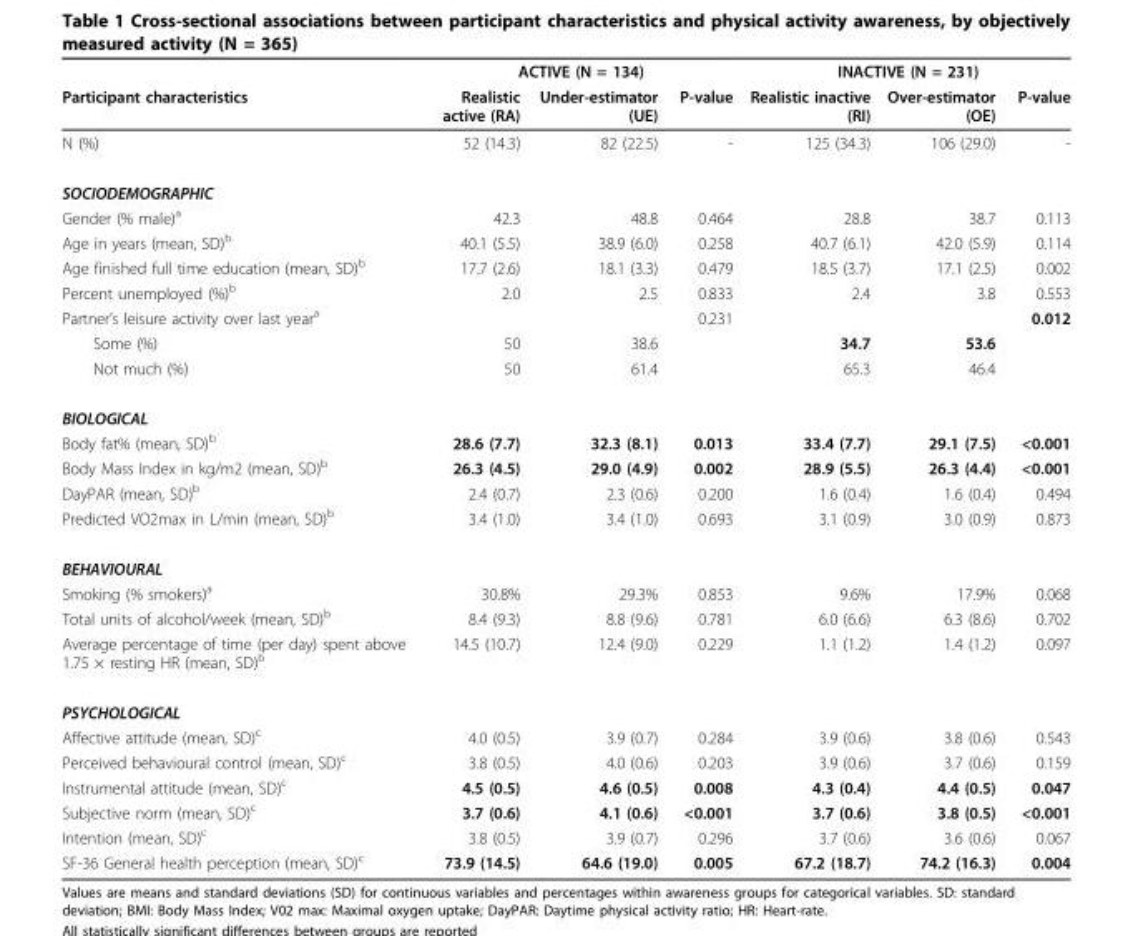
<table><thead><tr><td rowspan="2">Participant characteristics</td><td colspan="3">ACTIVE (N = 134)</td><td colspan="3">INACTIVE (N = 231)</td></tr><tr><td>Realistic active (RA)</td><td>Under-estimator (UE)</td><td>P-value</td><td>Realistic inactive (RI)</td><td>Over-estimator (OE)</td><td>P-value</td></tr></thead><tbody><tr><td>N (%)</td><td>52 (14.3)</td><td>82 (22.5)</td><td>-</td><td>125 (34.3)</td><td>106 (29.0)</td><td>-</td></tr><tr><td colspan="7">SOCIODEMOGRAPHIC</td></tr><tr><td>Gender (% male)<sup>a</sup></td><td>42.3</td><td>48.8</td><td>0.464</td><td>28.8</td><td>38.7</td><td>0.113</td></tr><tr><td>Age in years (mean, SD)<sup>b</sup></td><td>40.1 (5.5)</td><td>38.9 (6.0)</td><td>0.258</td><td>40.7 (6.1)</td><td>42.0 (5.9)</td><td>0.114</td></tr><tr><td>Age finished full time education (mean, SD)<sup>b</sup></td><td>17.7 (2.6)</td><td>18.1 (3.3)</td><td>0.479</td><td>18.5 (3.7)</td><td>17.1 (2.5)</td><td>0.002</td></tr><tr><td>Percent unemployed (%)<sup>b</sup></td><td>2.0</td><td>2.5</td><td>0.833</td><td>2.4</td><td>3.8</td><td>0.553</td></tr><tr><td>Partner’s leisure activity over last year<sup>a</sup></td><td></td><td></td><td>0.231</td><td></td><td></td><td>0.012</td></tr><tr><td>Some (%)</td><td>50</td><td>38.6</td><td></td><td>34.7</td><td>53.6</td><td></td></tr><tr><td>Not much (%)</td><td>50</td><td>61.4</td><td></td><td>65.3</td><td>46.4</td><td></td></tr><tr><td colspan="7">BIOLOGICAL</td></tr><tr><td>Body fat% (mean, SD)<sup>b</sup></td><td>28.6 (7.7)</td><td>32.3 (8.1)</td><td>0.013</td><td>33.4 (7.7)</td><td>29.1 (7.5)</td><td>&lt;0.001</td></tr><tr><td>Body Mass Index in kg/m2 (mean, SD)<sup>b</sup></td><td>26.3 (4.5)</td><td>29.0 (4.9)</td><td>0.002</td><td>28.9 (5.5)</td><td>26.3 (4.4)</td><td>&lt;0.001</td></tr><tr><td>DayPAR (mean, SD)<sup>b</sup></td><td>2.4 (0.7)</td><td>2.3 (0.6)</td><td>0.200</td><td>1.6 (0.4)</td><td>1.6 (0.4)</td><td>0.494</td></tr><tr><td>Predicted VO2max in L/min (mean, SD)<sup>b</sup></td><td>3.4 (1.0)</td><td>3.4 (1.0)</td><td>0.693</td><td>3.1 (0.9)</td><td>3.0 (0.9)</td><td>0.873</td></tr><tr><td colspan="7">BEHAVIOURAL</td></tr><tr><td>Smoking (% smokers)<sup>a</sup></td><td>30.8%</td><td>29.3%</td><td>0.853</td><td>9.6%</td><td>17.9%</td><td>0.068</td></tr><tr><td>Total units of alcohol/week (mean, SD)<sup>b</sup></td><td>8.4 (9.3)</td><td>8.8 (9.6)</td><td>0.781</td><td>6.0 (6.6)</td><td>6.3 (8.6)</td><td>0.702</td></tr><tr><td>Average percentage of time (per day) spent above 1.75 × resting HR (mean, SD)<sup>b</sup></td><td>14.5 (10.7)</td><td>12.4 (9.0)</td><td>0.229</td><td>1.1 (1.2)</td><td>1.4 (1.2)</td><td>0.097</td></tr><tr><td colspan="7">PSYCHOLOGICAL</td></tr><tr><td>Affective attitude (mean, SD)<sup>c</sup></td><td>4.0 (0.5)</td><td>3.9 (0.7)</td><td>0.284</td><td>3.9 (0.6)</td><td>3.8 (0.6)</td><td>0.543</td></tr><tr><td>Perceived behavioural control (mean, SD)<sup>c</sup></td><td>3.8 (0.5)</td><td>4.0 (0.6)</td><td>0.203</td><td>3.9 (0.6)</td><td>3.7 (0.6)</td><td>0.159</td></tr><tr><td>Instrumental attitude (mean, SD)<sup>c</sup></td><td>4.5 (0.5)</td><td>4.6 (0.5)</td><td>0.008</td><td>4.3 (0.4)</td><td>4.4 (0.5)</td><td>0.047</td></tr><tr><td>Subjective norm (mean, SD)<sup>c</sup></td><td>3.7 (0.6)</td><td>4.1 (0.6)</td><td>&lt;0.001</td><td>3.7 (0.6)</td><td>3.8 (0.5)</td><td>&lt;0.001</td></tr><tr><td>Intention (mean, SD)<sup>c</sup></td><td>3.8 (0.5)</td><td>3.9 (0.7)</td><td>0.296</td><td>3.7 (0.6)</td><td>3.6 (0.6)</td><td>0.067</td></tr><tr><td>SF-36 General health perception (mean, SD)<sup>c</sup></td><td>73.9 (14.5)</td><td>64.6 (19.0)</td><td>0.005</td><td>67.2 (18.7)</td><td>74.2 (16.3)</td><td>0.004</td></tr></tbody></table>